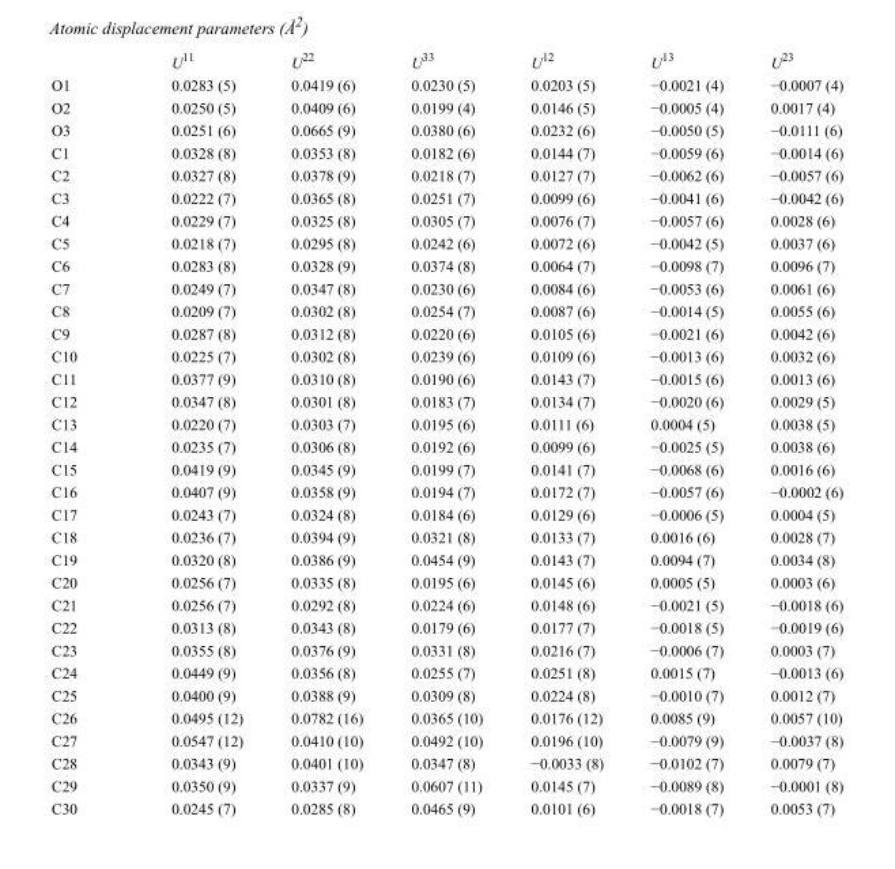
<table><thead><tr><td></td><td>U<sup>11</sup></td><td>U<sup>22</sup></td><td>U<sup>33</sup></td><td>U<sup>12</sup></td><td>U<sup>13</sup></td><td>U<sup>23</sup></td></tr></thead><tbody><tr><td>O1</td><td>0.0283 (5)</td><td>0.0419 (6)</td><td>0.0230 (5)</td><td>0.0203 (5)</td><td>−0.0021 (4)</td><td>−0.0007 (4)</td></tr><tr><td>O2</td><td>0.0250 (5)</td><td>0.0409 (6)</td><td>0.0199 (4)</td><td>0.0146 (5)</td><td>−0.0005 (4)</td><td>0.0017 (4)</td></tr><tr><td>O3</td><td>0.0251 (6)</td><td>0.0665 (9)</td><td>0.0380 (6)</td><td>0.0232 (6)</td><td>−0.0050 (5)</td><td>−0.0111 (6)</td></tr><tr><td>C1</td><td>0.0328 (8)</td><td>0.0353 (8)</td><td>0.0182 (6)</td><td>0.0144 (7)</td><td>−0.0059 (6)</td><td>−0.0014 (6)</td></tr><tr><td>C2</td><td>0.0327 (8)</td><td>0.0378 (9)</td><td>0.0218 (7)</td><td>0.0127 (7)</td><td>−0.0062 (6)</td><td>−0.0057 (6)</td></tr><tr><td>C3</td><td>0.0222 (7)</td><td>0.0365 (8)</td><td>0.0251 (7)</td><td>0.0099 (6)</td><td>−0.0041 (6)</td><td>−0.0042 (6)</td></tr><tr><td>C4</td><td>0.0229 (7)</td><td>0.0325 (8)</td><td>0.0305 (7)</td><td>0.0076 (7)</td><td>−0.0057 (6)</td><td>0.0028 (6)</td></tr><tr><td>C5</td><td>0.0218 (7)</td><td>0.0295 (8)</td><td>0.0242 (6)</td><td>0.0072 (6)</td><td>−0.0042 (5)</td><td>0.0037 (6)</td></tr><tr><td>C6</td><td>0.0283 (8)</td><td>0.0328 (9)</td><td>0.0374 (8)</td><td>0.0064 (7)</td><td>−0.0098 (7)</td><td>0.0096 (7)</td></tr><tr><td>C7</td><td>0.0249 (7)</td><td>0.0347 (8)</td><td>0.0230 (6)</td><td>0.0084 (6)</td><td>−0.0053 (6)</td><td>0.0061 (6)</td></tr><tr><td>C8</td><td>0.0209 (7)</td><td>0.0302 (8)</td><td>0.0254 (7)</td><td>0.0087 (6)</td><td>−0.0014 (5)</td><td>0.0055 (6)</td></tr><tr><td>C9</td><td>0.0287 (8)</td><td>0.0312 (8)</td><td>0.0220 (6)</td><td>0.0105 (6)</td><td>−0.0021 (6)</td><td>0.0042 (6)</td></tr><tr><td>C10</td><td>0.0225 (7)</td><td>0.0302 (8)</td><td>0.0239 (6)</td><td>0.0109 (6)</td><td>−0.0013 (6)</td><td>0.0032 (6)</td></tr><tr><td>C11</td><td>0.0377 (9)</td><td>0.0310 (8)</td><td>0.0190 (6)</td><td>0.0143 (7)</td><td>−0.0015 (6)</td><td>0.0013 (6)</td></tr><tr><td>C12</td><td>0.0347 (8)</td><td>0.0301 (8)</td><td>0.0183 (7)</td><td>0.0134 (7)</td><td>−0.0020 (6)</td><td>0.0029 (5)</td></tr><tr><td>C13</td><td>0.0220 (7)</td><td>0.0303 (7)</td><td>0.0195 (6)</td><td>0.0111 (6)</td><td>0.0004 (5)</td><td>0.0038 (5)</td></tr><tr><td>C14</td><td>0.0235 (7)</td><td>0.0306 (8)</td><td>0.0192 (6)</td><td>0.0099 (6)</td><td>−0.0025 (5)</td><td>0.0038 (6)</td></tr><tr><td>C15</td><td>0.0419 (9)</td><td>0.0345 (9)</td><td>0.0199 (7)</td><td>0.0141 (7)</td><td>−0.0068 (6)</td><td>0.0016 (6)</td></tr><tr><td>C16</td><td>0.0407 (9)</td><td>0.0358 (9)</td><td>0.0194 (7)</td><td>0.0172 (7)</td><td>−0.0057 (6)</td><td>−0.0002 (6)</td></tr><tr><td>C17</td><td>0.0243 (7)</td><td>0.0324 (8)</td><td>0.0184 (6)</td><td>0.0129 (6)</td><td>−0.0006 (5)</td><td>0.0004 (5)</td></tr><tr><td>C18</td><td>0.0236 (7)</td><td>0.0394 (9)</td><td>0.0321 (8)</td><td>0.0133 (7)</td><td>0.0016 (6)</td><td>0.0028 (7)</td></tr><tr><td>C19</td><td>0.0320 (8)</td><td>0.0386 (9)</td><td>0.0454 (9)</td><td>0.0143 (7)</td><td>0.0094 (7)</td><td>0.0034 (8)</td></tr><tr><td>C20</td><td>0.0256 (7)</td><td>0.0335 (8)</td><td>0.0195 (6)</td><td>0.0145 (6)</td><td>0.0005 (5)</td><td>0.0003 (6)</td></tr><tr><td>C21</td><td>0.0256 (7)</td><td>0.0292 (8)</td><td>0.0224 (6)</td><td>0.0148 (6)</td><td>−0.0021 (5)</td><td>−0.0018 (6)</td></tr><tr><td>C22</td><td>0.0313 (8)</td><td>0.0343 (8)</td><td>0.0179 (6)</td><td>0.0177 (7)</td><td>−0.0018 (5)</td><td>−0.0019 (6)</td></tr><tr><td>C23</td><td>0.0355 (8)</td><td>0.0376 (9)</td><td>0.0331 (8)</td><td>0.0216 (7)</td><td>−0.0006 (7)</td><td>0.0003 (7)</td></tr><tr><td>C24</td><td>0.0449 (9)</td><td>0.0356 (8)</td><td>0.0255 (7)</td><td>0.0251 (8)</td><td>0.0015 (7)</td><td>−0.0013 (6)</td></tr><tr><td>C25</td><td>0.0400 (9)</td><td>0.0388 (9)</td><td>0.0309 (8)</td><td>0.0224 (8)</td><td>−0.0010 (7)</td><td>0.0012 (7)</td></tr><tr><td>C26</td><td>0.0495 (12)</td><td>0.0782 (16)</td><td>0.0365 (10)</td><td>0.0176 (12)</td><td>0.0085 (9)</td><td>0.0057 (10)</td></tr><tr><td>C27</td><td>0.0547 (12)</td><td>0.0410 (10)</td><td>0.0492 (10)</td><td>0.0196 (10)</td><td>−0.0079 (9)</td><td>−0.0037 (8)</td></tr><tr><td>C28</td><td>0.0343 (9)</td><td>0.0401 (10)</td><td>0.0347 (8)</td><td>−0.0033 (8)</td><td>−0.0102 (7)</td><td>0.0079 (7)</td></tr><tr><td>C29</td><td>0.0350 (9)</td><td>0.0337 (9)</td><td>0.0607 (11)</td><td>0.0145 (7)</td><td>−0.0089 (8)</td><td>−0.0001 (8)</td></tr><tr><td>C30</td><td>0.0245 (7)</td><td>0.0285 (8)</td><td>0.0465 (9)</td><td>0.0101 (6)</td><td>−0.0018 (7)</td><td>0.0053 (7)</td></tr></tbody></table>